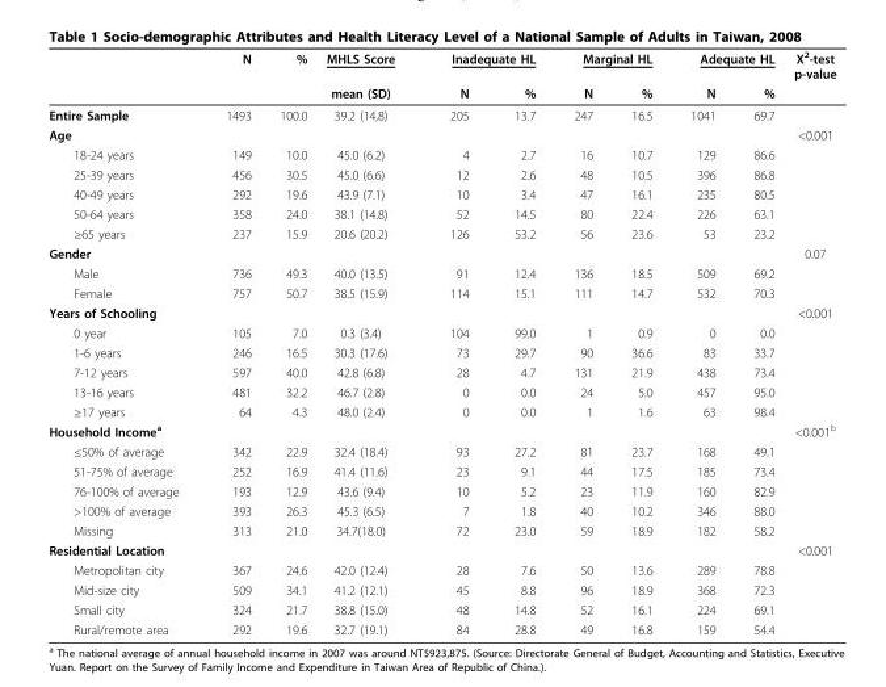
<table><thead><tr><td rowspan="2"></td><td rowspan="2">N</td><td rowspan="2">%</td><td rowspan="2">MHLS Score mean (SD)</td><td colspan="2">Inadequate HL</td><td colspan="2">Marginal HL</td><td colspan="2">Adequate HL</td><td rowspan="2">X<sup>2</sup>-test p-value</td></tr><tr><td>N</td><td>%</td><td>N</td><td>%</td><td>N</td><td>%</td></tr></thead><tbody><tr><td>Entire Sample</td><td>1493</td><td>100.0</td><td>39.2 (14,8)</td><td>205</td><td>13.7</td><td>247</td><td>16.5</td><td>1041</td><td>69.7</td><td></td></tr><tr><td colspan="10">Age</td><td>&lt;0.001</td></tr><tr><td>18-24 years</td><td>149</td><td>10.0</td><td>45.0 (6.2)</td><td>4</td><td>2.7</td><td>16</td><td>10.7</td><td>129</td><td>86.6</td><td></td></tr><tr><td>25-39 years</td><td>456</td><td>30.5</td><td>45.0 (6.6)</td><td>12</td><td>2.6</td><td>48</td><td>10.5</td><td>396</td><td>86.8</td><td></td></tr><tr><td>40-49 years</td><td>292</td><td>19.6</td><td>43.9 (7.1)</td><td>10</td><td>3.4</td><td>47</td><td>16.1</td><td>235</td><td>80.5</td><td></td></tr><tr><td>50-64 years</td><td>358</td><td>24.0</td><td>38.1 (14.8)</td><td>52</td><td>14.5</td><td>80</td><td>22.4</td><td>226</td><td>63.1</td><td></td></tr><tr><td>≥65 years</td><td>237</td><td>15.9</td><td>20.6 (20.2)</td><td>126</td><td>53.2</td><td>56</td><td>23.6</td><td>53</td><td>23.2</td><td></td></tr><tr><td colspan="10">Gender</td><td>0.07</td></tr><tr><td>Male</td><td>736</td><td>49.3</td><td>40.0 (13.5)</td><td>91</td><td>12.4</td><td>136</td><td>18.5</td><td>509</td><td>69.2</td><td></td></tr><tr><td>Female</td><td>757</td><td>50.7</td><td>38.5 (15.9)</td><td>114</td><td>15.1</td><td>111</td><td>14.7</td><td>532</td><td>70.3</td><td></td></tr><tr><td colspan="10">Years of Schooling</td><td>&lt;0.001</td></tr><tr><td>0 year</td><td>105</td><td>7.0</td><td>0.3 (3.4)</td><td>104</td><td>99.0</td><td>1</td><td>0.9</td><td>0</td><td>0.0</td><td></td></tr><tr><td>1-6 years</td><td>246</td><td>16.5</td><td>30.3 (17.6)</td><td>73</td><td>29.7</td><td>90</td><td>36.6</td><td>83</td><td>33.7</td><td></td></tr><tr><td>7-12 years</td><td>597</td><td>40.0</td><td>42.8 (6.8)</td><td>28</td><td>4.7</td><td>131</td><td>21.9</td><td>438</td><td>73.4</td><td></td></tr><tr><td>13-16 years</td><td>481</td><td>32.2</td><td>46.7 (2.8)</td><td>0</td><td>0.0</td><td>24</td><td>5.0</td><td>457</td><td>95.0</td><td></td></tr><tr><td>≥17 years</td><td>64</td><td>4.3</td><td>48.0 (2.4)</td><td>0</td><td>0.0</td><td>1</td><td>1.6</td><td>63</td><td>98.4</td><td></td></tr><tr><td colspan="10">Household Income<sup>a</sup></td><td>&lt;0.001<sup>b</sup></td></tr><tr><td>≤50% of average</td><td>342</td><td>22.9</td><td>32.4 (18.4)</td><td>93</td><td>27.2</td><td>81</td><td>23.7</td><td>168</td><td>49.1</td><td></td></tr><tr><td>51-75% of average</td><td>252</td><td>16.9</td><td>41.4 (11.6)</td><td>23</td><td>9.1</td><td>44</td><td>17.5</td><td>185</td><td>73.4</td><td></td></tr><tr><td>76-100% of average</td><td>193</td><td>12.9</td><td>43.6 (9.4)</td><td>10</td><td>5.2</td><td>23</td><td>11.9</td><td>160</td><td>82.9</td><td></td></tr><tr><td>&gt;100% of average</td><td>393</td><td>26.3</td><td>45.3 (6.5)</td><td>7</td><td>1.8</td><td>40</td><td>10.2</td><td>346</td><td>88.0</td><td></td></tr><tr><td>Missing</td><td>313</td><td>21.0</td><td>34.7(18.0)</td><td>72</td><td>23.0</td><td>59</td><td>18.9</td><td>182</td><td>58.2</td><td></td></tr><tr><td colspan="10">Residential Location</td><td>&lt;0.001</td></tr><tr><td>Metropolitan city</td><td>367</td><td>24.6</td><td>42.0 (12.4)</td><td>28</td><td>7.6</td><td>50</td><td>13.6</td><td>289</td><td>78.8</td><td></td></tr><tr><td>Mid-size city</td><td>509</td><td>34.1</td><td>41.2 (12.1)</td><td>45</td><td>8.8</td><td>96</td><td>18.9</td><td>368</td><td>72.3</td><td></td></tr><tr><td>Small city</td><td>324</td><td>21.7</td><td>38.8 (15.0)</td><td>48</td><td>14.8</td><td>52</td><td>16.1</td><td>224</td><td>69.1</td><td></td></tr><tr><td>Rural/remote area</td><td>292</td><td>19.6</td><td>32.7 (19.1)</td><td>84</td><td>28.8</td><td>49</td><td>16.8</td><td>159</td><td>54.4</td><td></td></tr></tbody></table>